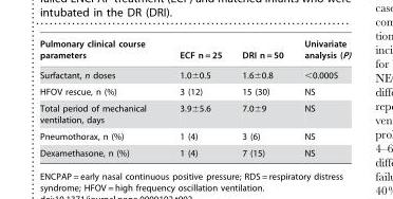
<table><thead><tr><td>Pulmonary clinical course parameters</td><td>ECF n = 25</td><td>DRI n = 50</td><td>Univariate analysis (P)</td></tr></thead><tbody><tr><td>Surfactant, n doses</td><td>1.0±0.5</td><td>1.6±0.8</td><td>&lt;0.0005</td></tr><tr><td>HFOV rescue, n (%)</td><td>3 (12)</td><td>15 (30)</td><td>NS</td></tr><tr><td>Total period of mechanical ventilation, days</td><td>3.9±5.6</td><td>7.0±9</td><td>NS</td></tr><tr><td>Pneumothorax, n (%)</td><td>1 (4)</td><td>3 (6)</td><td>NS</td></tr><tr><td>Dexamethasone, n (%)</td><td>1 (4)</td><td>7 (15)</td><td>NS</td></tr></tbody></table>